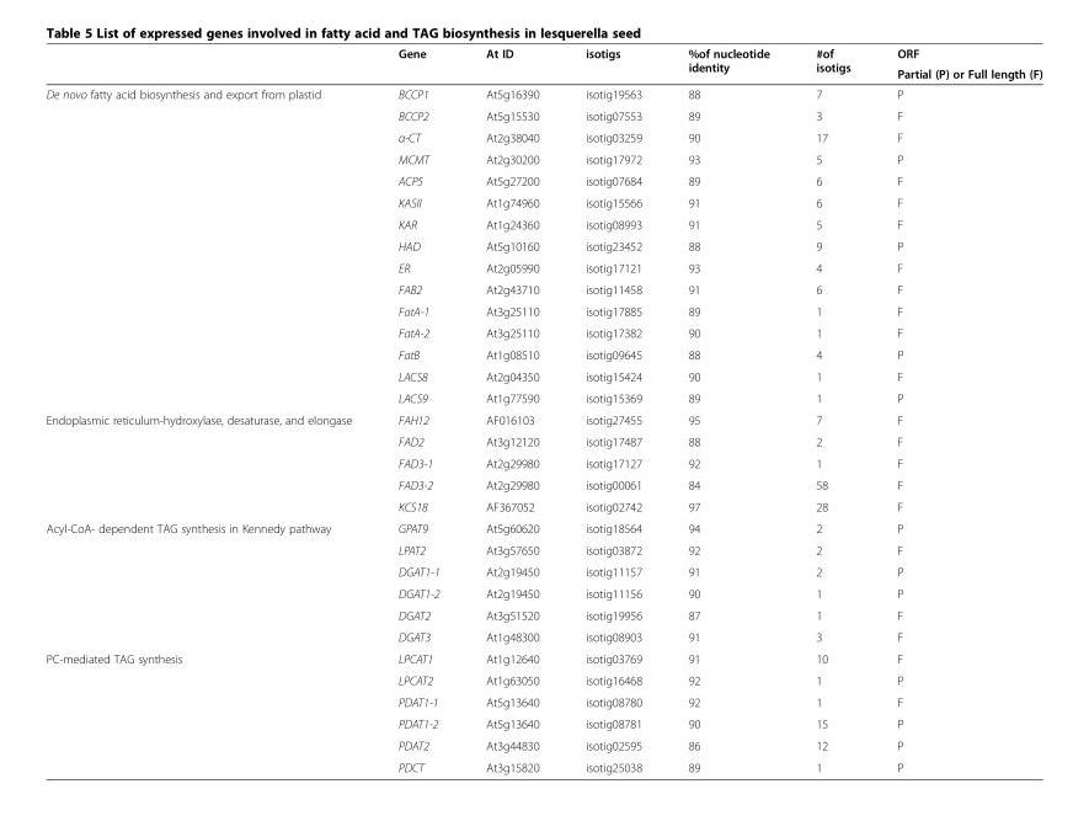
<table><thead><tr><td rowspan="2"></td><td rowspan="2">Gene</td><td rowspan="2">At ID</td><td rowspan="2">isotigs</td><td rowspan="2">%of nucleotide identity</td><td rowspan="2">#of isotigs</td><td rowspan="2">ORF Partial (P) or Full length (F)</td></tr><tr></tr></thead><tbody><tr><td rowspan="15">De novo fatty acid biosynthesis and export from plastid</td><td>BCCP1</td><td>At5g16390</td><td>isotig19563</td><td>88</td><td>7</td><td>P</td></tr><tr><td>BCCP2</td><td>At5g15530</td><td>isotig07553</td><td>89</td><td>3</td><td>F</td></tr><tr><td>α-CT</td><td>At2g38040</td><td>isotig03259</td><td>90</td><td>17</td><td>F</td></tr><tr><td>MCMT</td><td>At2g30200</td><td>isotig17972</td><td>93</td><td>5</td><td>P</td></tr><tr><td>ACP5</td><td>At5g27200</td><td>isotig07684</td><td>89</td><td>6</td><td>F</td></tr><tr><td>KASII</td><td>At1g74960</td><td>isotig15566</td><td>91</td><td>6</td><td>F</td></tr><tr><td>KAR</td><td>At1g24360</td><td>isotig08993</td><td>91</td><td>5</td><td>F</td></tr><tr><td>HAD</td><td>At5g10160</td><td>isotig23452</td><td>88</td><td>9</td><td>P</td></tr><tr><td>ER</td><td>At2g05990</td><td>isotig17121</td><td>93</td><td>4</td><td>F</td></tr><tr><td>FAB2</td><td>At2g43710</td><td>isotig11458</td><td>91</td><td>6</td><td>F</td></tr><tr><td>FatA-1</td><td>At3g25110</td><td>isotig17885</td><td>89</td><td>1</td><td>F</td></tr><tr><td>FatA-2</td><td>At3g25110</td><td>isotig17382</td><td>90</td><td>1</td><td>F</td></tr><tr><td>FatB</td><td>At1g08510</td><td>isotig09645</td><td>88</td><td>4</td><td>P</td></tr><tr><td>LACS8</td><td>At2g04350</td><td>isotig15424</td><td>90</td><td>1</td><td>F</td></tr><tr><td>LACS9</td><td>At1g77590</td><td>isotig15369</td><td>89</td><td>1</td><td>P</td></tr><tr><td rowspan="5">Endoplasmic reticulum-hydroxylase, desaturase, and elongase</td><td>FAH12</td><td>AF016103</td><td>isotig27455</td><td>95</td><td>7</td><td>F</td></tr><tr><td>FAD2</td><td>At3g12120</td><td>isotig17487</td><td>88</td><td>2</td><td>F</td></tr><tr><td>FAD3-1</td><td>At2g29980</td><td>isotig17127</td><td>92</td><td>1</td><td>F</td></tr><tr><td>FAD3-2</td><td>At2g29980</td><td>isotig00061</td><td>84</td><td>58</td><td>F</td></tr><tr><td>KCS18</td><td>AF367052</td><td>isotig02742</td><td>97</td><td>28</td><td>F</td></tr><tr><td rowspan="6">Acyl-CoA- dependent TAG synthesis in Kennedy pathway</td><td>GPAT9</td><td>At5g60620</td><td>isotig18564</td><td>94</td><td>2</td><td>P</td></tr><tr><td>LPAT2</td><td>At3g57650</td><td>isotig03872</td><td>92</td><td>2</td><td>F</td></tr><tr><td>DGAT1-1</td><td>At2g19450</td><td>isotig11157</td><td>91</td><td>2</td><td>P</td></tr><tr><td>DGAT1-2</td><td>At2g19450</td><td>isotig11156</td><td>90</td><td>1</td><td>P</td></tr><tr><td>DGAT2</td><td>At3g51520</td><td>isotig19956</td><td>87</td><td>1</td><td>F</td></tr><tr><td>DGAT3</td><td>At1g48300</td><td>isotig08903</td><td>91</td><td>3</td><td>F</td></tr><tr><td rowspan="6">PC-mediated TAG synthesis</td><td>LPCAT1</td><td>At1g12640</td><td>isotig03769</td><td>91</td><td>10</td><td>F</td></tr><tr><td>LPCAT2</td><td>At1g63050</td><td>isotig16468</td><td>92</td><td>1</td><td>P</td></tr><tr><td>PDAT1-1</td><td>At5g13640</td><td>isotig08780</td><td>92</td><td>1</td><td>F</td></tr><tr><td>PDAT1-2</td><td>At5g13640</td><td>isotig08781</td><td>90</td><td>15</td><td>P</td></tr><tr><td>PDAT2</td><td>At3g44830</td><td>isotig02595</td><td>86</td><td>12</td><td>P</td></tr><tr><td>PDCT</td><td>At3g15820</td><td>isotig25038</td><td>89</td><td>1</td><td>P</td></tr></tbody></table>